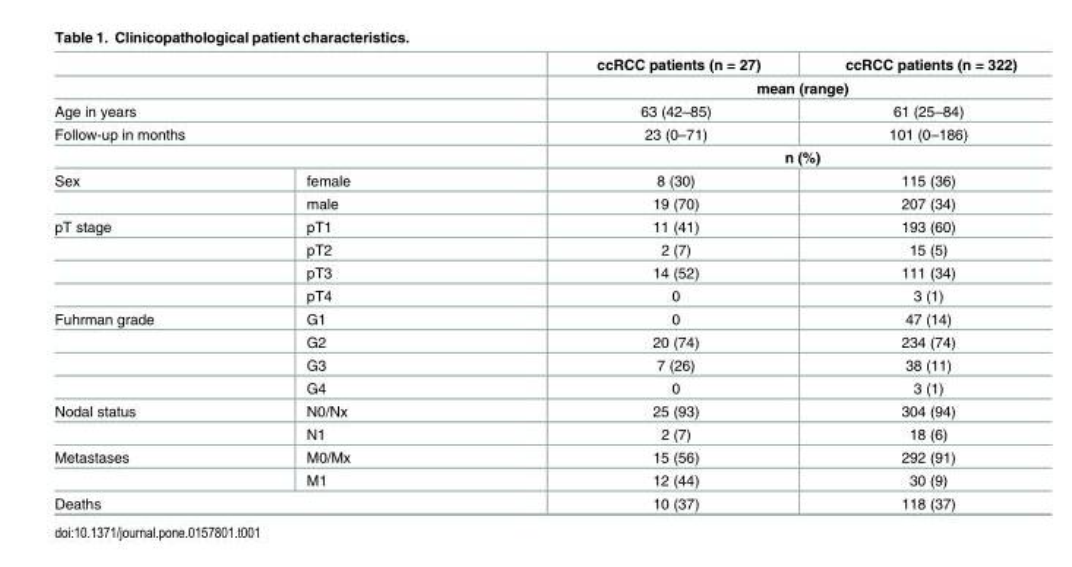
<table><thead><tr><td></td><td></td><td>ccRCC patients (n = 27)</td><td>ccRCC patients (n = 322)</td></tr></thead><tbody><tr><td colspan="2"></td><td colspan="2">mean (range)</td></tr><tr><td colspan="2">Age in years</td><td>63 (42–85)</td><td>61 (25–84)</td></tr><tr><td rowspan="2" colspan="2">Follow-up in months</td><td>23 (0–71)</td><td>101 (0–186)</td></tr><tr><td colspan="2">n (%)</td></tr><tr><td rowspan="2">Sex</td><td>female</td><td>8 (30)</td><td>115 (36)</td></tr><tr><td>male</td><td>19 (70)</td><td>207 (34)</td></tr><tr><td rowspan="4">pT stage</td><td>pT1</td><td>11 (41)</td><td>193 (60)</td></tr><tr><td>pT2</td><td>2 (7)</td><td>15 (5)</td></tr><tr><td>pT3</td><td>14 (52)</td><td>111 (34)</td></tr><tr><td>pT4</td><td>0</td><td>3 (1)</td></tr><tr><td rowspan="4">Fuhrman grade</td><td>G1</td><td>0</td><td>47 (14)</td></tr><tr><td>G2</td><td>20 (74)</td><td>234 (74)</td></tr><tr><td>G3</td><td>7 (26)</td><td>38 (11)</td></tr><tr><td>G4</td><td>0</td><td>3 (1)</td></tr><tr><td rowspan="2">Nodal status</td><td>N0/Nx</td><td>25 (93)</td><td>304 (94)</td></tr><tr><td>N1</td><td>2 (7)</td><td>18 (6)</td></tr><tr><td rowspan="2">Metastases</td><td>M0/Mx</td><td>15 (56)</td><td>292 (91)</td></tr><tr><td>M1</td><td>12 (44)</td><td>30 (9)</td></tr><tr><td colspan="2">Deaths</td><td>10 (37)</td><td>118 (37)</td></tr></tbody></table>